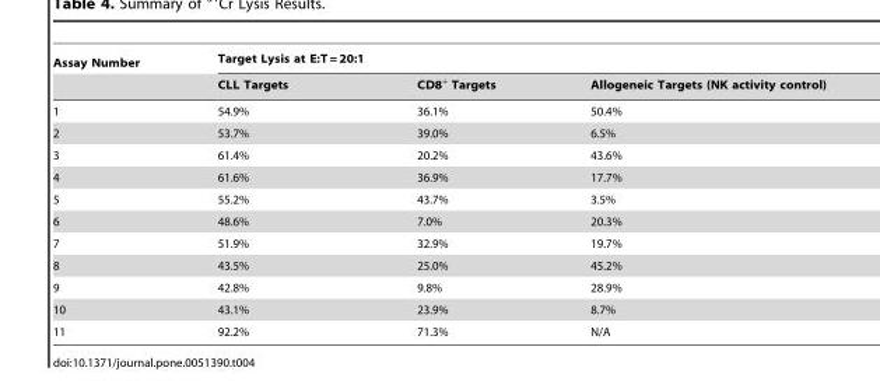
<table><thead><tr><td rowspan="2">Assay Number</td><td colspan="3">Target Lysis at E:T = 20:1</td></tr><tr><td>CLL Targets</td><td>CD8<sup>+</sup> Targets</td><td>Allogeneic Targets (NK activity control)</td></tr></thead><tbody><tr><td>1</td><td>54.9%</td><td>36.1%</td><td>50.4%</td></tr><tr><td>2</td><td>53.7%</td><td>39.0%</td><td>6.5%</td></tr><tr><td>3</td><td>61.4%</td><td>20.2%</td><td>43.6%</td></tr><tr><td>4</td><td>61.6%</td><td>36.9%</td><td>17.7%</td></tr><tr><td>5</td><td>55.2%</td><td>43.7%</td><td>3.5%</td></tr><tr><td>6</td><td>48.6%</td><td>7.0%</td><td>20.3%</td></tr><tr><td>7</td><td>51.9%</td><td>32.9%</td><td>19.7%</td></tr><tr><td>8</td><td>43.5%</td><td>25.0%</td><td>45.2%</td></tr><tr><td>9</td><td>42.8%</td><td>9.8%</td><td>28.9%</td></tr><tr><td>10</td><td>43.1%</td><td>23.9%</td><td>8.7%</td></tr><tr><td>11</td><td>92.2%</td><td>71.3%</td><td>N/A</td></tr></tbody></table>